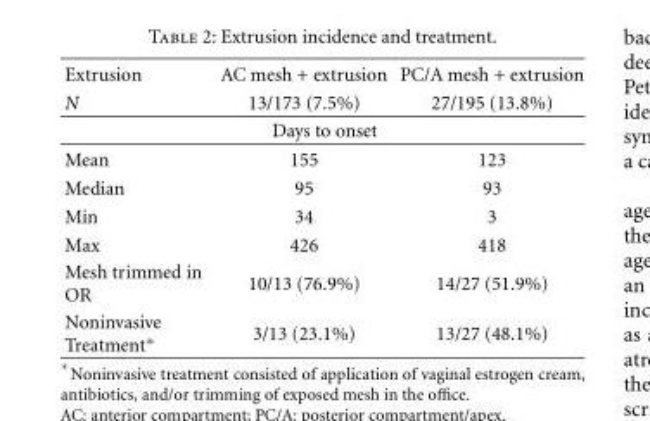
<table><thead><tr><td rowspan="2">Extrusion N</td><td rowspan="2">AC mesh + extrusion 13/173 (7.5%)</td><td rowspan="2">PC/A mesh + extrusion 27/195 (13.8%)</td></tr><tr></tr></thead><tbody><tr><td colspan="3">Days to onset</td></tr><tr><td>Mean</td><td>155</td><td>123</td></tr><tr><td>Median</td><td>95</td><td>93</td></tr><tr><td>Min</td><td>34</td><td>3</td></tr><tr><td>Max</td><td>426</td><td>418</td></tr><tr><td>Mesh trimmed in OR</td><td>10/13 (76.9%)</td><td>14/27 (51.9%)</td></tr><tr><td>Noninvasive Treatment∗</td><td>3/13 (23.1%)</td><td>13/27 (48.1%)</td></tr></tbody></table>